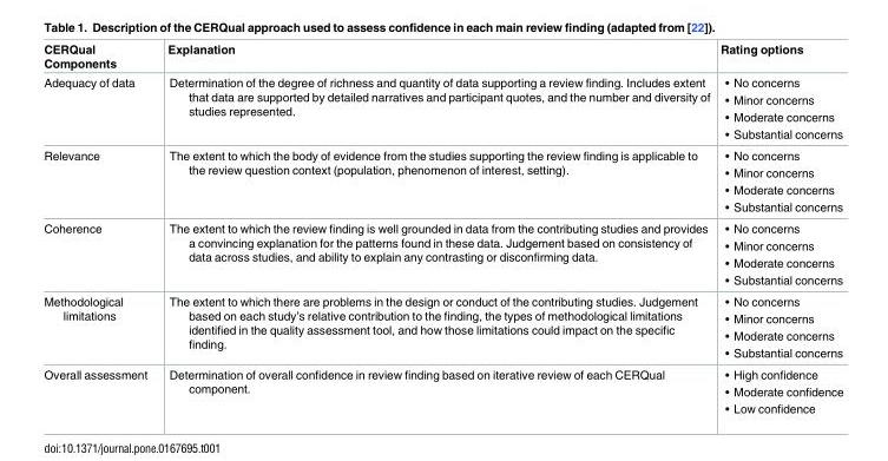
<table><thead><tr><td>CERQual Components</td><td>Explanation</td><td>Rating options</td></tr></thead><tbody><tr><td>Adequacy of data</td><td>Determination of the degree of richness and quantity of data supporting a review finding. Includes extent that data are supported by detailed narratives and participant quotes, and the number and diversity of studies represented.</td><td>• No concerns • Minor concerns • Moderate concerns • Substantial concerns</td></tr><tr><td>Relevance</td><td>The extent to which the body of evidence from the studies supporting the review finding is applicable to the review question context (population, phenomenon of interest, setting).</td><td>• No concerns • Minor concerns • Moderate concerns • Substantial concerns</td></tr><tr><td>Coherence</td><td>The extent to which the review finding is well grounded in data from the contributing studies and provides a convincing explanation for the patterns found in these data. Judgement based on consistency of data across studies, and ability to explain any contrasting or disconfirming data.</td><td>• No concerns • Minor concerns • Moderate concerns • Substantial concerns</td></tr><tr><td>Methodological limitations</td><td>The extent to which there are problems in the design or conduct of the contributing studies. Judgement based on each study’s relative contribution to the finding, the types of methodological limitations identified in the quality assessment tool, and how those limitations could impact on the specific finding.</td><td>• No concerns • Minor concerns • Moderate concerns • Substantial concerns</td></tr><tr><td>Overall assessment</td><td>Determination of overall confidence in review finding based on iterative review of each CERQual component.</td><td>• High confidence • Moderate confidence • Low confidence</td></tr></tbody></table>